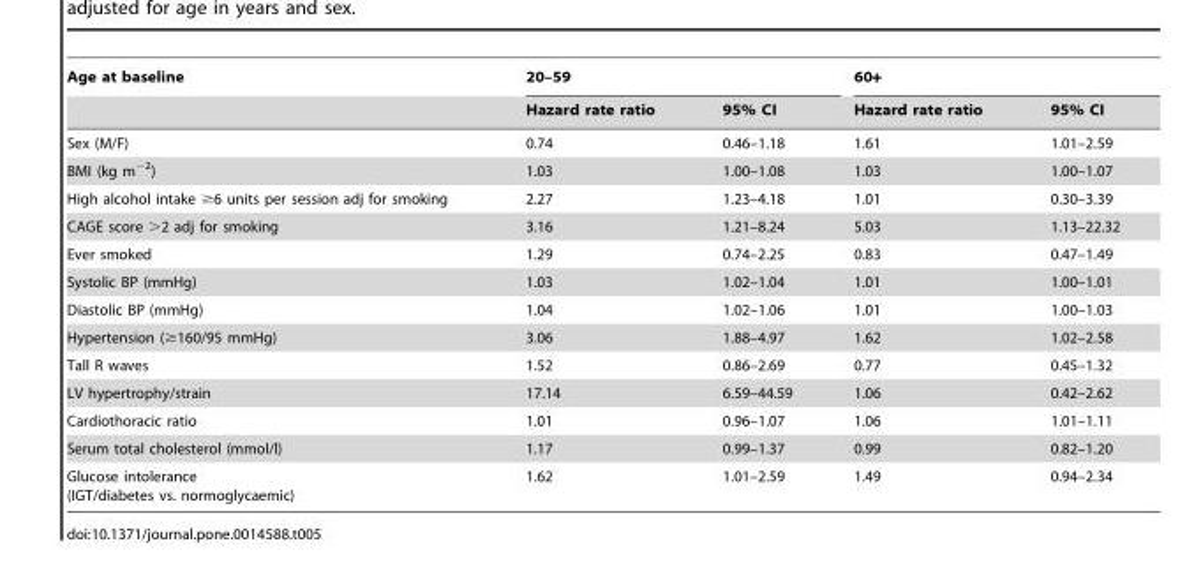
<table><thead><tr><td rowspan="2">Age at baseline</td><td colspan="2">20–59</td><td colspan="2">60+</td></tr><tr><td>Hazard rate ratio</td><td>95% CI</td><td>Hazard rate ratio</td><td>95% CI</td></tr></thead><tbody><tr><td>Sex (M/F)</td><td>0.74</td><td>0.46–1.18</td><td>1.61</td><td>1.01–2.59</td></tr><tr><td>BMI (kg m<sup>−2</sup>)</td><td>1.03</td><td>1.00–1.08</td><td>1.03</td><td>1.00–1.07</td></tr><tr><td>High alcohol intake ≥6 units per session adj for smoking</td><td>2.27</td><td>1.23–4.18</td><td>1.01</td><td>0.30–3.39</td></tr><tr><td>CAGE score &gt;2 adj for smoking</td><td>3.16</td><td>1.21–8.24</td><td>5.03</td><td>1.13–22.32</td></tr><tr><td>Ever smoked</td><td>1.29</td><td>0.74–2.25</td><td>0.83</td><td>0.47–1.49</td></tr><tr><td>Systolic BP (mmHg)</td><td>1.03</td><td>1.02–1.04</td><td>1.01</td><td>1.00–1.01</td></tr><tr><td>Diastolic BP (mmHg)</td><td>1.04</td><td>1.02–1.06</td><td>1.01</td><td>1.00–1.03</td></tr><tr><td>Hypertension (≥160/95 mmHg)</td><td>3.06</td><td>1.88–4.97</td><td>1.62</td><td>1.02–2.58</td></tr><tr><td>Tall R waves</td><td>1.52</td><td>0.86–2.69</td><td>0.77</td><td>0.45–1.32</td></tr><tr><td>LV hypertrophy/strain</td><td>17.14</td><td>6.59–44.59</td><td>1.06</td><td>0.42–2.62</td></tr><tr><td>Cardiothoracic ratio</td><td>1.01</td><td>0.96–1.07</td><td>1.06</td><td>1.01–1.11</td></tr><tr><td>Serum total cholesterol (mmol/l)</td><td>1.17</td><td>0.99–1.37</td><td>0.99</td><td>0.82–1.20</td></tr><tr><td>Glucose intolerance (IGT/diabetes vs. normoglycaemic)</td><td>1.62</td><td>1.01–2.59</td><td>1.49</td><td>0.94–2.34</td></tr></tbody></table>